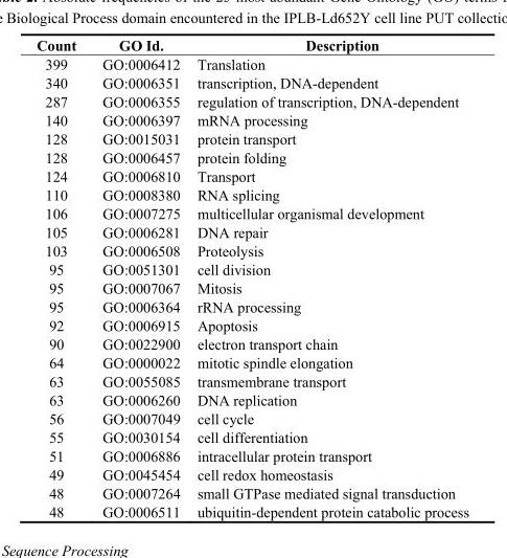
<table><thead><tr><td>Count</td><td>GO Id.</td><td>Description</td></tr></thead><tbody><tr><td>399</td><td>GO:0006412</td><td>Translation</td></tr><tr><td>340</td><td>GO:0006351</td><td>transcription, DNA-dependent</td></tr><tr><td>287</td><td>GO:0006355</td><td>regulation of transcription, DNA-dependent</td></tr><tr><td>140</td><td>GO:0006397</td><td>mRNA processing</td></tr><tr><td>128</td><td>GO:0015031</td><td>protein transport</td></tr><tr><td>128</td><td>GO:0006457</td><td>protein folding</td></tr><tr><td>124</td><td>GO:0006810</td><td>Transport</td></tr><tr><td>110</td><td>GO:0008380</td><td>RNA splicing</td></tr><tr><td>106</td><td>GO:0007275</td><td>multicellular organismal development</td></tr><tr><td>105</td><td>GO:0006281</td><td>DNA repair</td></tr><tr><td>103</td><td>GO:0006508</td><td>Proteolysis</td></tr><tr><td>95</td><td>GO:0051301</td><td>cell division</td></tr><tr><td>95</td><td>GO:0007067</td><td>Mitosis</td></tr><tr><td>95</td><td>GO:0006364</td><td>rRNA processing</td></tr><tr><td>92</td><td>GO:0006915</td><td>Apoptosis</td></tr><tr><td>90</td><td>GO:0022900</td><td>electron transport chain</td></tr><tr><td>64</td><td>GO:0000022</td><td>mitotic spindle elongation</td></tr><tr><td>63</td><td>GO:0055085</td><td>transmembrane transport</td></tr><tr><td>63</td><td>GO:0006260</td><td>DNA replication</td></tr><tr><td>56</td><td>GO:0007049</td><td>cell cycle</td></tr><tr><td>55</td><td>GO:0030154</td><td>cell differentiation</td></tr><tr><td>51</td><td>GO:0006886</td><td>intracellular protein transport</td></tr><tr><td>49</td><td>GO:0045454</td><td>cell redox homeostasis</td></tr><tr><td>48</td><td>GO:0007264</td><td>small GTPase mediated signal transduction</td></tr><tr><td>48</td><td>GO:0006511</td><td>ubiquitin-dependent protein catabolic process</td></tr></tbody></table>